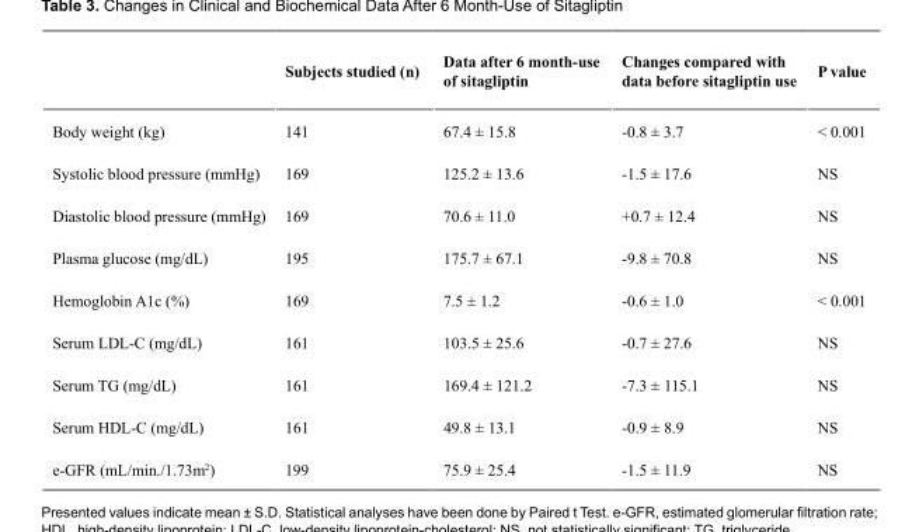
<table><thead><tr><td></td><td>Subjects studied (n)</td><td>Data after 6 month-use of sitagliptin</td><td>Changes compared with data before sitagliptin use</td><td>P value</td></tr></thead><tbody><tr><td>Body weight (kg)</td><td>141</td><td>67.4 ± 15.8</td><td>-0.8 ± 3.7</td><td>&lt; 0.001</td></tr><tr><td>Systolic blood pressure (mmHg)</td><td>169</td><td>125.2 ± 13.6</td><td>-1.5 ± 17.6</td><td>NS</td></tr><tr><td>Diastolic blood pressure (mmHg)</td><td>169</td><td>70.6 ± 11.0</td><td>+0.7 ± 12.4</td><td>NS</td></tr><tr><td>Plasma glucose (mg/dL)</td><td>195</td><td>175.7 ± 67.1</td><td>-9.8 ± 70.8</td><td>NS</td></tr><tr><td>Hemoglobin A1c (%)</td><td>169</td><td>7.5 ± 1.2</td><td>-0.6 ± 1.0</td><td>&lt; 0.001</td></tr><tr><td>Serum LDL-C (mg/dL)</td><td>161</td><td>103.5 ± 25.6</td><td>-0.7 ± 27.6</td><td>NS</td></tr><tr><td>Serum TG (mg/dL)</td><td>161</td><td>169.4 ± 121.2</td><td>-7.3 ± 115.1</td><td>NS</td></tr><tr><td>Serum HDL-C (mg/dL)</td><td>161</td><td>49.8 ± 13.1</td><td>-0.9 ± 8.9</td><td>NS</td></tr><tr><td>e-GFR (mL/min./1.73m<sup>2</sup>)</td><td>199</td><td>75.9 ± 25.4</td><td>-1.5 ± 11.9</td><td>NS</td></tr></tbody></table>